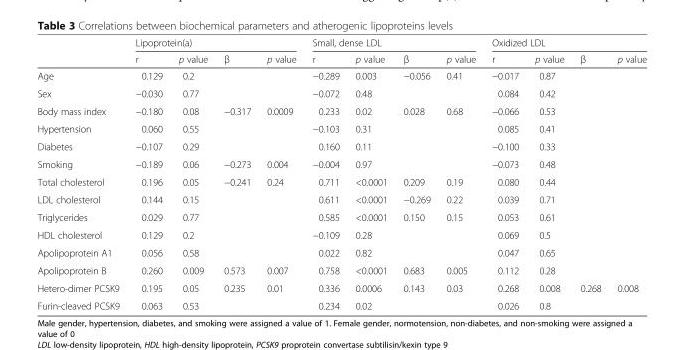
<table><thead><tr><td rowspan="2"></td><td colspan="4">Lipoprotein(a)</td><td colspan="4">Small, dense LDL</td><td colspan="4">Oxidized LDL</td></tr><tr><td>r</td><td>p value</td><td>β</td><td>p value</td><td>r</td><td>p value</td><td>β</td><td>p value</td><td>r</td><td>p value</td><td>β</td><td>p value</td></tr></thead><tbody><tr><td>Age</td><td>0.129</td><td>0.2</td><td></td><td></td><td>−0.289</td><td>0.003</td><td>−0.056</td><td>0.41</td><td>−0.017</td><td>0.87</td><td></td><td></td></tr><tr><td>Sex</td><td>−0.030</td><td>0.77</td><td></td><td></td><td>−0.072</td><td>0.48</td><td></td><td></td><td>0.084</td><td>0.42</td><td></td><td></td></tr><tr><td>Body mass index</td><td>−0.180</td><td>0.08</td><td>−0.317</td><td>0.0009</td><td>0.233</td><td>0.02</td><td>0.028</td><td>0.68</td><td>−0.066</td><td>0.53</td><td></td><td></td></tr><tr><td>Hypertension</td><td>0.060</td><td>0.55</td><td></td><td></td><td>−0.103</td><td>0.31</td><td></td><td></td><td>0.085</td><td>0.41</td><td></td><td></td></tr><tr><td>Diabetes</td><td>−0.107</td><td>0.29</td><td></td><td></td><td>0.160</td><td>0.11</td><td></td><td></td><td>−0.100</td><td>0.33</td><td></td><td></td></tr><tr><td>Smoking</td><td>−0.189</td><td>0.06</td><td>−0.273</td><td>0.004</td><td>−0.004</td><td>0.97</td><td></td><td></td><td>−0.073</td><td>0.48</td><td></td><td></td></tr><tr><td>Total cholesterol</td><td>0.196</td><td>0.05</td><td>−0.241</td><td>0.24</td><td>0.711</td><td>&lt;0.0001</td><td>0.209</td><td>0.19</td><td>0.080</td><td>0.44</td><td></td><td></td></tr><tr><td>LDL cholesterol</td><td>0.144</td><td>0.15</td><td></td><td></td><td>0.611</td><td>&lt;0.0001</td><td>−0.269</td><td>0.22</td><td>0.039</td><td>0.71</td><td></td><td></td></tr><tr><td>Triglycerides</td><td>0.029</td><td>0.77</td><td></td><td></td><td>0.585</td><td>&lt;0.0001</td><td>0.150</td><td>0.15</td><td>0.053</td><td>0.61</td><td></td><td></td></tr><tr><td>HDL cholesterol</td><td>0.129</td><td>0.2</td><td></td><td></td><td>−0.109</td><td>0.28</td><td></td><td></td><td>0.069</td><td>0.5</td><td></td><td></td></tr><tr><td>Apolipoprotein A1</td><td>0.056</td><td>0.58</td><td></td><td></td><td>0.022</td><td>0.82</td><td></td><td></td><td>0.047</td><td>0.65</td><td></td><td></td></tr><tr><td>Apolipoprotein B</td><td>0.260</td><td>0.009</td><td>0.573</td><td>0.007</td><td>0.758</td><td>&lt;0.0001</td><td>0.683</td><td>0.005</td><td>0.112</td><td>0.28</td><td></td><td></td></tr><tr><td>Hetero-dimer PCSK9</td><td>0.195</td><td>0.05</td><td>0.235</td><td>0.01</td><td>0.336</td><td>0.0006</td><td>0.143</td><td>0.03</td><td>0.268</td><td>0.008</td><td>0.268</td><td>0.008</td></tr><tr><td>Furin-cleaved PCSK9</td><td>0.063</td><td>0.53</td><td></td><td></td><td>0.234</td><td>0.02</td><td></td><td></td><td>0.026</td><td>0.8</td><td></td><td></td></tr></tbody></table>